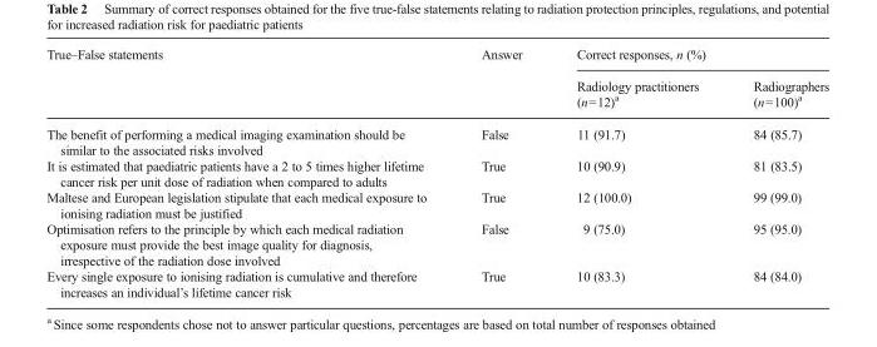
<table><thead><tr><td rowspan="2">True–False statements</td><td rowspan="2">Answer</td><td colspan="2">Correct responses, n (%)</td></tr><tr><td>Radiology practitioners (n=12)<sup>a</sup></td><td>Radiographers (n=100)<sup>a</sup></td></tr></thead><tbody><tr><td>The benefit of performing a medical imaging examination should be similar to the associated risks involved</td><td>False</td><td>11 (91.7)</td><td>84 (85.7)</td></tr><tr><td>It is estimated that paediatric patients have a 2 to 5 times higher lifetime cancer risk per unit dose of radiation when compared to adults</td><td>True</td><td>10 (90.9)</td><td>81 (83.5)</td></tr><tr><td>Maltese and European legislation stipulate that each medical exposure to ionising radiation must be justified</td><td>True</td><td>12 (100.0)</td><td>99 (99.0)</td></tr><tr><td>Optimisation refers to the principle by which each medical radiation exposure must provide the best image quality for diagnosis, irrespective of the radiation dose involved</td><td>False</td><td>9 (75.0)</td><td>95 (95.0)</td></tr><tr><td>Every single exposure to ionising radiation is cumulative and therefore increases an individual’s lifetime cancer risk</td><td>True</td><td>10 (83.3)</td><td>84 (84.0)</td></tr></tbody></table>